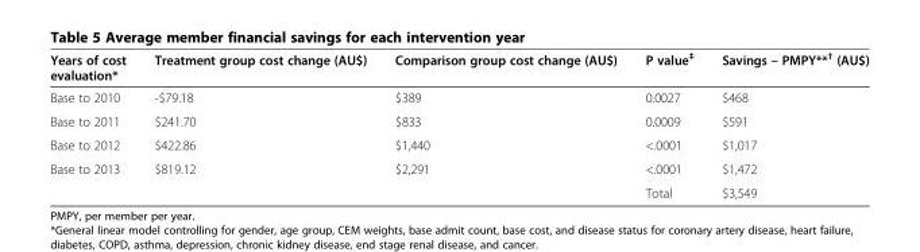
<table><thead><tr><td>Years of cost evaluation*</td><td>Treatment group cost change (AU$)</td><td>Comparison group cost change (AU$)</td><td>P value<sup>‡</sup></td><td>Savings – PMPY**<sup>†</sup> (AU$)</td></tr></thead><tbody><tr><td>Base to 2010</td><td>-$79.18</td><td>$389</td><td>0.0027</td><td>$468</td></tr><tr><td>Base to 2011</td><td>$241.70</td><td>$833</td><td>0.0009</td><td>$591</td></tr><tr><td>Base to 2012</td><td>$422.86</td><td>$1,440</td><td>&lt;.0001</td><td>$1,017</td></tr><tr><td>Base to 2013</td><td>$819.12</td><td>$2,291</td><td>&lt;.0001</td><td>$1,472</td></tr><tr><td colspan="3"></td><td>Total</td><td>$3,549</td></tr></tbody></table>